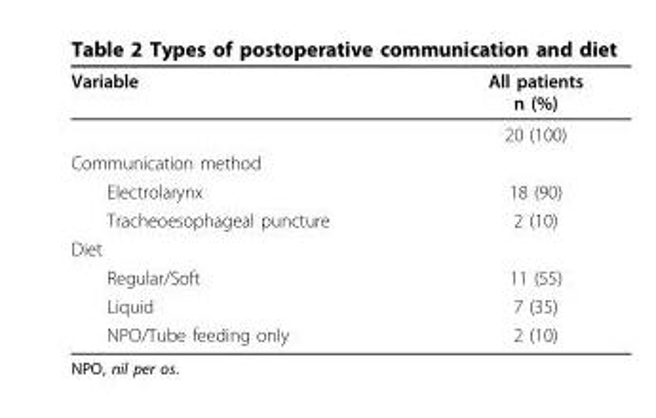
<table><thead><tr><td>Variable</td><td>All patients n (%)</td></tr></thead><tbody><tr><td></td><td>20 (100)</td></tr><tr><td colspan="2">Communication method</td></tr><tr><td>Electrolarynx</td><td>18 (90)</td></tr><tr><td>Tracheoesophageal puncture</td><td>2 (10)</td></tr><tr><td colspan="2">Diet</td></tr><tr><td>Regular/Soft</td><td>11 (55)</td></tr><tr><td>Liquid</td><td>7 (35)</td></tr><tr><td>NPO/Tube feeding only</td><td>2 (10)</td></tr></tbody></table>